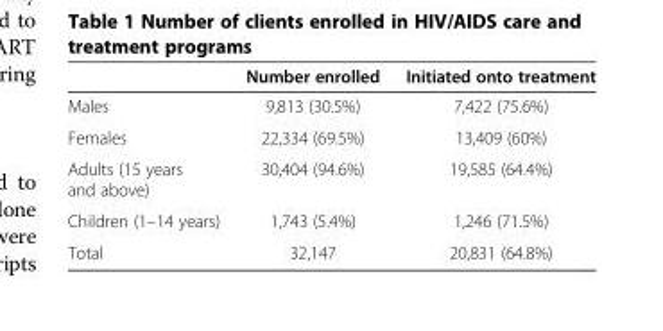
<table><thead><tr><td></td><td>Number enrolled</td><td>Initiated onto treatment</td></tr></thead><tbody><tr><td>Males</td><td>9,813 (30.5%)</td><td>7,422 (75.6%)</td></tr><tr><td>Females</td><td>22,334 (69.5%)</td><td>13,409 (60%)</td></tr><tr><td>Adults (15 years and above)</td><td>30,404 (94.6%)</td><td>19,585 (64.4%)</td></tr><tr><td>Children (1–14 years)</td><td>1,743 (5.4%)</td><td>1,246 (71.5%)</td></tr><tr><td>Total</td><td>32,147</td><td>20,831 (64.8%)</td></tr></tbody></table>